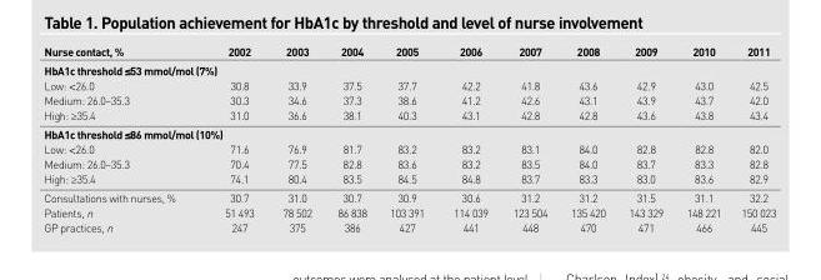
<table><thead><tr><td>Nurse contact, %</td><td>2002</td><td>2003</td><td>2004</td><td>2005</td><td>2006</td><td>2007</td><td>2008</td><td>2009</td><td>2010</td><td>2011</td></tr></thead><tbody><tr><td colspan="11">HbA1c threshold ≤53 mmol/mol (7%)</td></tr><tr><td>Low: &lt;26.0</td><td>30.8</td><td>33.9</td><td>37.5</td><td>37.7</td><td>42.2</td><td>41.8</td><td>43.6</td><td>42.9</td><td>43.0</td><td>42.5</td></tr><tr><td>Medium: 26.0–35.3</td><td>30.3</td><td>34.6</td><td>37.3</td><td>38.6</td><td>41.2</td><td>42.6</td><td>43.1</td><td>43.9</td><td>43.7</td><td>42.0</td></tr><tr><td>High: ≥35.4</td><td>31.0</td><td>36.6</td><td>38.1</td><td>40.3</td><td>43.1</td><td>42.8</td><td>42.8</td><td>43.6</td><td>43.8</td><td>43.4</td></tr><tr><td colspan="11">HbA1c threshold ≤86 mmol/mol (10%)</td></tr><tr><td>Low: &lt;26.0</td><td>71.6</td><td>76.9</td><td>81.7</td><td>83.2</td><td>83.2</td><td>83.1</td><td>84.0</td><td>82.8</td><td>82.8</td><td>82.0</td></tr><tr><td>Medium: 26.0–35.3</td><td>70.4</td><td>77.5</td><td>82.8</td><td>83.6</td><td>83.2</td><td>83.5</td><td>84.0</td><td>83.7</td><td>83.3</td><td>82.8</td></tr><tr><td>High: ≥35.4</td><td>74.1</td><td>80.4</td><td>83.5</td><td>84.5</td><td>84.8</td><td>83.7</td><td>83.3</td><td>83.0</td><td>83.6</td><td>82.9</td></tr><tr><td>Consultations with nurses, %</td><td>30.7</td><td>31.0</td><td>30.7</td><td>30.9</td><td>30.6</td><td>31.2</td><td>31.2</td><td>31.5</td><td>31.1</td><td>32.2</td></tr><tr><td>Patients, n</td><td>51 493</td><td>78 502</td><td>86 838</td><td>103 391</td><td>114 039</td><td>123 504</td><td>135 420</td><td>143 329</td><td>148 221</td><td>150 023</td></tr><tr><td>GP practices, n</td><td>247</td><td>375</td><td>386</td><td>427</td><td>441</td><td>448</td><td>470</td><td>471</td><td>466</td><td>445</td></tr></tbody></table>